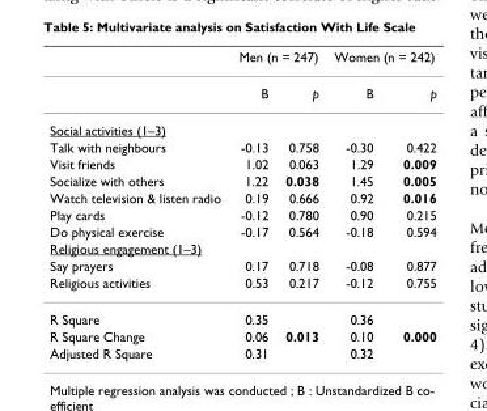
<table><thead><tr><td rowspan="2"></td><td colspan="2">Men (n = 247)</td><td colspan="2">Women (n = 242)</td></tr><tr><td>B</td><td>p</td><td>B</td><td>p</td></tr></thead><tbody><tr><td colspan="5">Social activities (1–3)</td></tr><tr><td>Talk with neighbours</td><td>-0.13</td><td>0.758</td><td>-0.30</td><td>0.422</td></tr><tr><td>Visit friends</td><td>1.02</td><td>0.063</td><td>1.29</td><td>0.009</td></tr><tr><td>Socialize with others</td><td>1.22</td><td>0.038</td><td>1.45</td><td>0.005</td></tr><tr><td>Watch television &amp; listen radio</td><td>0.19</td><td>0.666</td><td>0.92</td><td>0.016</td></tr><tr><td>Play cards</td><td>-0.12</td><td>0.780</td><td>0.90</td><td>0.215</td></tr><tr><td>Do physical exercise</td><td>-0.17</td><td>0.564</td><td>-0.18</td><td>0.594</td></tr><tr><td colspan="5">Religious engagement (1–3)</td></tr><tr><td>Say prayers</td><td>0.17</td><td>0.718</td><td>-0.08</td><td>0.877</td></tr><tr><td>Religious activities</td><td>0.53</td><td>0.217</td><td>-0.12</td><td>0.755</td></tr><tr><td>R Square</td><td>0.35</td><td></td><td>0.36</td><td></td></tr><tr><td>R Square Change</td><td>0.06</td><td>0.013</td><td>0.10</td><td>0.000</td></tr><tr><td>Adjusted R Square</td><td>0.31</td><td></td><td>0.32</td><td></td></tr></tbody></table>